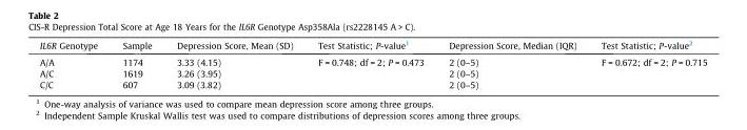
<table><thead><tr><td>IL6R Genotype</td><td>Sample</td><td>Depression Score, Mean (SD)</td><td>Test Statistic; P-value<sup>1</sup></td><td>Depression Score, Median (IQR)</td><td>Test Statistic; P-value<sup>2</sup></td></tr></thead><tbody><tr><td>A/A</td><td>1174</td><td>3.33 (4.15)</td><td rowspan="3">F = 0.748; df = 2; P = 0.473</td><td>2 (0–5)</td><td rowspan="3">F = 0.672; df = 2; P = 0.715</td></tr><tr><td>A/C</td><td>1619</td><td>3.26 (3.95)</td><td>2 (0–5)</td></tr><tr><td>C/C</td><td>607</td><td>3.09 (3.82)</td><td>2 (0–5)</td></tr></tbody></table>